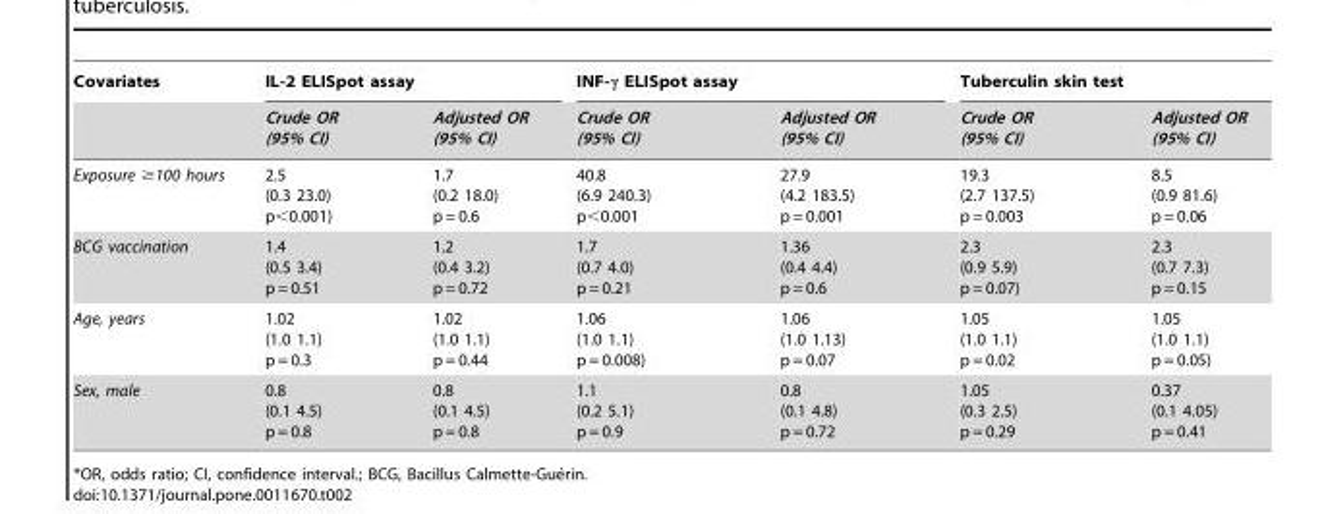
<table><thead><tr><td rowspan="2">Covariates</td><td colspan="2">IL-2 ELISpot assay</td><td colspan="2">INF-γ ELISpot assay</td><td colspan="2">Tuberculin skin test</td></tr><tr><td>Crude OR (95% CI)</td><td>Adjusted OR (95% CI)</td><td>Crude OR (95% CI)</td><td>Adjusted OR (95% CI)</td><td>Crude OR (95% CI)</td><td>Adjusted OR (95% CI)</td></tr></thead><tbody><tr><td>Exposure ≥100 hours</td><td>2.5 (0.3 23.0) p&lt;0.001)</td><td>1.7 (0.2 18.0) p = 0.6</td><td>40.8 (6.9 240.3) p&lt;0.001</td><td>27.9 (4.2 183.5) p = 0.001</td><td>19.3 (2.7 137.5) p = 0.003</td><td>8.5 (0.9 81.6) p = 0.06</td></tr><tr><td>BCG vaccination</td><td>1.4 (0.5 3.4) p = 0.51</td><td>1.2 (0.4 3.2) p = 0.72</td><td>1.7 (0.7 4.0) p = 0.21</td><td>1.36 (0.4 4.4) p = 0.6</td><td>2.3 (0.9 5.9) p = 0.07)</td><td>2.3 (0.7 7.3) p = 0.15</td></tr><tr><td>Age, years</td><td>1.02 (1.0 1.1) p = 0.3</td><td>1.02 (1.0 1.1) p = 0.44</td><td>1.06 (1.0 1.1) p = 0.008)</td><td>1.06 (1.0 1.13) p = 0.07</td><td>1.05 (1.0 1.1) p = 0.02</td><td>1.05 (1.0 1.1) p = 0.05)</td></tr><tr><td>Sex, male</td><td>0.8 (0.1 4.5) p = 0.8</td><td>0.8 (0.1 4.5) p = 0.8</td><td>1.1 (0.2 5.1) p = 0.9</td><td>0.8 (0.1 4.8) p = 0.72</td><td>1.05 (0.3 2.5) p = 0.29</td><td>0.37 (0.1 4.05) p = 0.41</td></tr></tbody></table>